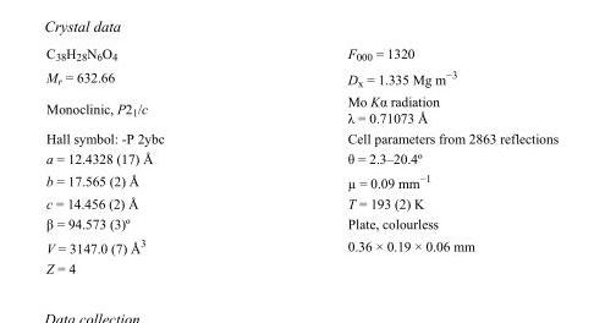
<table><tbody><tr><td>C<sub>38</sub>H<sub>28</sub>N<sub>6</sub>O<sub>4</sub></td><td>F000 = 1320</td></tr><tr><td>M<sub>r</sub> = 632.66</td><td>D<sub>x</sub> = 1.335 Mg m<sup>−3</sup></td></tr><tr><td>Monoclinic, P2<sub>1</sub>/c</td><td>Mo Kα radiation λ = 0.71073 Å</td></tr><tr><td>Hall symbol: -P 2ybc</td><td>Cell parameters from 2863 reflections</td></tr><tr><td>a = 12.4328 (17) Å</td><td>θ = 2.3–20.4º</td></tr><tr><td>b = 17.565 (2) Å</td><td>µ = 0.09 mm<sup>−1</sup></td></tr><tr><td>c = 14.456 (2) Å</td><td>T = 193 (2) K</td></tr><tr><td>β = 94.573 (3)º</td><td>Plate, colourless</td></tr><tr><td>V = 3147.0 (7) Å<sup>3</sup></td><td>0.36 × 0.19 × 0.06 mm</td></tr><tr><td>Z = 4</td><td></td></tr></tbody></table>